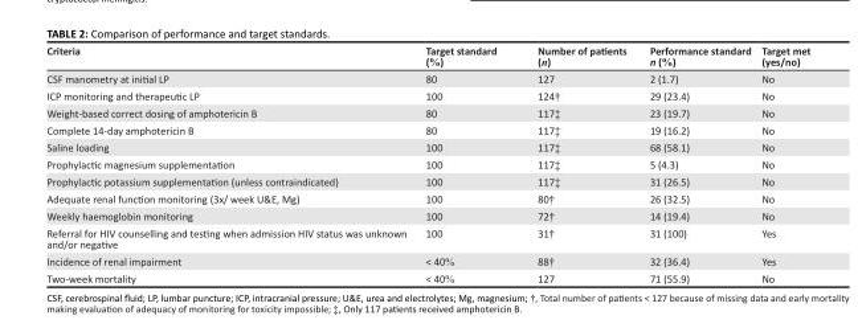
<table><thead><tr><td>Criteria</td><td>Target standard (%)</td><td>Number of patients (n)</td><td>Performance standard n (%)</td><td>Target met (yes/no)</td></tr></thead><tbody><tr><td>CSF manometry at initial LP</td><td>80</td><td>127</td><td>2 (1.7)</td><td>No</td></tr><tr><td>ICP monitoring and therapeutic LP</td><td>100</td><td>124†</td><td>29 (23.4)</td><td>No</td></tr><tr><td>Weight-based correct dosing of amphotericin B</td><td>80</td><td>117‡</td><td>23 (19.7)</td><td>No</td></tr><tr><td>Complete 14-day amphotericin B</td><td>80</td><td>117‡</td><td>19 (16.2)</td><td>No</td></tr><tr><td>Saline loading</td><td>100</td><td>117‡</td><td>68 (58.1)</td><td>No</td></tr><tr><td>Prophylactic magnesium supplementation</td><td>100</td><td>117‡</td><td>5 (4.3)</td><td>No</td></tr><tr><td>Prophylactic potassium supplementation (unless contraindicated)</td><td>100</td><td>117‡</td><td>31 (26.5)</td><td>No</td></tr><tr><td>Adequate renal function monitoring (3x/ week U&amp;E, Mg)</td><td>100</td><td>80†</td><td>26 (32.5)</td><td>No</td></tr><tr><td>Weekly haemoglobin monitoring</td><td>100</td><td>72†</td><td>14 (19.4)</td><td>No</td></tr><tr><td>Referral for HIV counselling and testing when admission HIV status was unknown and/or negative</td><td>100</td><td>31†</td><td>31 (100)</td><td>Yes</td></tr><tr><td>Incidence of renal impairment</td><td>&lt; 40%</td><td>88†</td><td>32 (36.4)</td><td>Yes</td></tr><tr><td>Two-week mortality</td><td>&lt; 40%</td><td>127</td><td>71 (55.9)</td><td>No</td></tr></tbody></table>